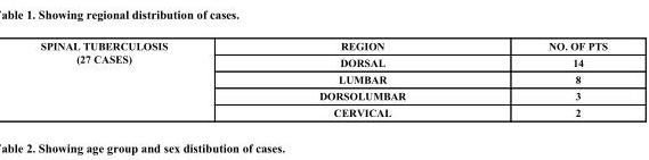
<table><tbody><tr><td rowspan="5">SPINAL TUBERCULOSIS (27 CASES)</td><td>REGION</td><td>NO. OF PTS</td></tr><tr><td>DORSAL</td><td>14</td></tr><tr><td>LUMBAR</td><td>8</td></tr><tr><td>DORSOLUMBAR</td><td>3</td></tr><tr><td>CERVICAL</td><td>2</td></tr></tbody></table>